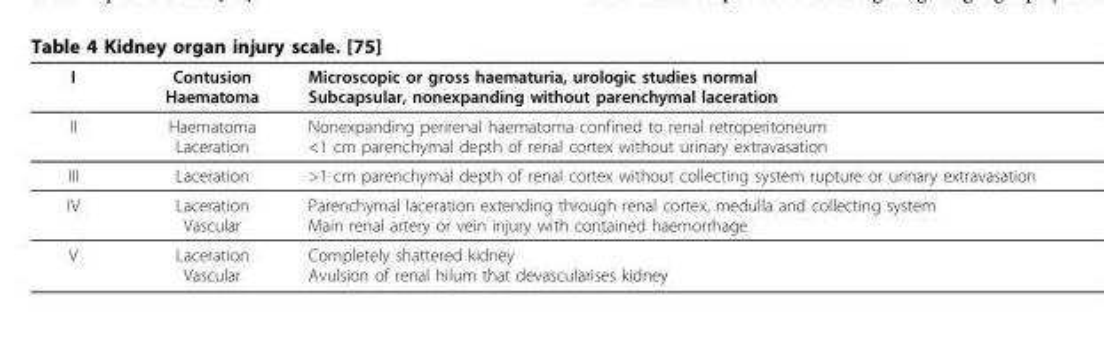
<table><thead><tr><td>I</td><td>Contusion Haematoma</td><td>Microscopic or gross haematuria, urologic studies normal Subcapsular, nonexpanding without parenchymal laceration</td></tr></thead><tbody><tr><td>II</td><td>Haematoma Laceration</td><td>Nonexpanding perirenal haematoma confined to renal retroperitoneum &lt;1 cm parenchymal depth of renal cortex without urinary extravasation</td></tr><tr><td>III</td><td>Laceration</td><td>&gt;1 cm parenchymal depth of renal cortex without collecting system rupture or urinary extravasation</td></tr><tr><td>IV</td><td>Laceration Vascular</td><td>Parenchymal laceration extending through renal cortex, medulla and collecting system Main renal artery or vein injury with contained haemorrhage</td></tr><tr><td>V</td><td>Laceration Vascular</td><td>Completely shattered kidney Avulsion of renal hilum that devascularises kidney</td></tr></tbody></table>